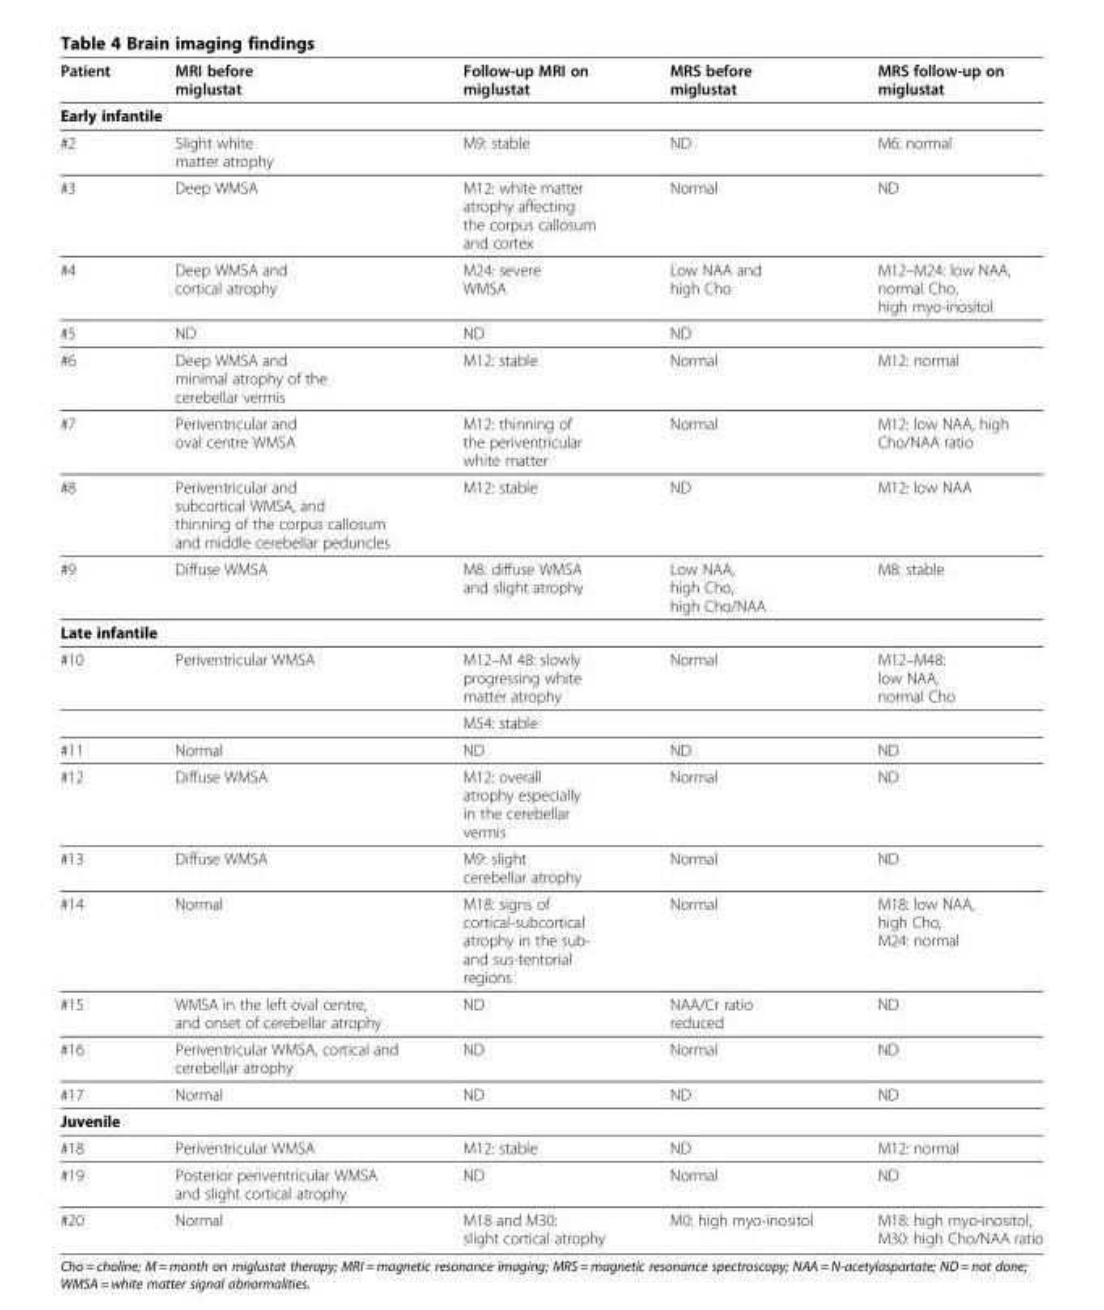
<table><thead><tr><td>Patient</td><td>MRI before miglustat</td><td>Follow-up MRI on miglustat</td><td>MRS before miglustat</td><td>MRS follow-up on miglustat</td></tr></thead><tbody><tr><td colspan="5">Early infantile</td></tr><tr><td>#2</td><td>Slight white matter atrophy</td><td>M9: stable</td><td>ND</td><td>M6: normal</td></tr><tr><td>#3</td><td>Deep WMSA</td><td>M12: white matter atrophy affecting the corpus callosum and cortex</td><td>Normal</td><td>ND</td></tr><tr><td>#4</td><td>Deep WMSA and cortical atrophy</td><td>M24: severe WMSA</td><td>Low NAA and high Cho</td><td>M12–M24: low NAA, normal Cho, high myo-inositol</td></tr><tr><td>#5</td><td>ND</td><td>ND</td><td>ND</td><td></td></tr><tr><td>#6</td><td>Deep WMSA and minimal atrophy of the cerebellar vermis</td><td>M12: stable</td><td>Normal</td><td>M12: normal</td></tr><tr><td>#7</td><td>Periventricular and oval centre WMSA</td><td>M12: thinning of the periventricular white matter</td><td>Normal</td><td>M12: low NAA, high Cho/NAA ratio</td></tr><tr><td>#8</td><td>Periventricular and subcortical WMSA, and thinning of the corpus callosum and middle cerebellar peduncles</td><td>M12: stable</td><td>ND</td><td>M12: low NAA</td></tr><tr><td>#9</td><td>Diffuse WMSA</td><td>M8: diffuse WMSA and slight atrophy</td><td>Low NAA, high Cho, high Cho/NAA</td><td>M8: stable</td></tr><tr><td colspan="5">Late infantile</td></tr><tr><td rowspan="2">#10</td><td>Periventricular WMSA</td><td>M12–M 48: slowly progressing white matter atrophy</td><td>Normal</td><td>M12–M48: low NAA, normal Cho</td></tr><tr><td></td><td>M54: stable</td><td></td><td></td></tr><tr><td>#11</td><td>Normal</td><td>ND</td><td>ND</td><td>ND</td></tr><tr><td>#12</td><td>Diffuse WMSA</td><td>M12: overall atrophy especially in the cerebellar vermis</td><td>Normal</td><td>ND</td></tr><tr><td>#13</td><td>Diffuse WMSA</td><td>M9: slight cerebellar atrophy</td><td>Normal</td><td>ND</td></tr><tr><td>#14</td><td>Normal</td><td>M18: signs of cortical-subcortical atrophy in the sub- and sus-tentorial regions</td><td>Normal</td><td>M18: low NAA, high Cho, M24: normal</td></tr><tr><td>#15</td><td>WMSA in the left oval centre, and onset of cerebellar atrophy</td><td>ND</td><td>NAA/Cr ratio reduced</td><td>ND</td></tr><tr><td>#16</td><td>Periventricular WMSA, cortical and cerebellar atrophy</td><td>ND</td><td>Normal</td><td>ND</td></tr><tr><td>#17</td><td>Normal</td><td>ND</td><td>ND</td><td>ND</td></tr><tr><td colspan="5">Juvenile</td></tr><tr><td>#18</td><td>Periventricular WMSA</td><td>M12: stable</td><td>ND</td><td>M12: normal</td></tr><tr><td>#19</td><td>Posterior periventricular WMSA and slight cortical atrophy</td><td>ND</td><td>Normal</td><td>ND</td></tr><tr><td>#20</td><td>Normal</td><td>M18 and M30: slight cortical atrophy</td><td>M0: high myo-inositol</td><td>M18: high myo-inositol, M30: high Cho/NAA ratio</td></tr></tbody></table>